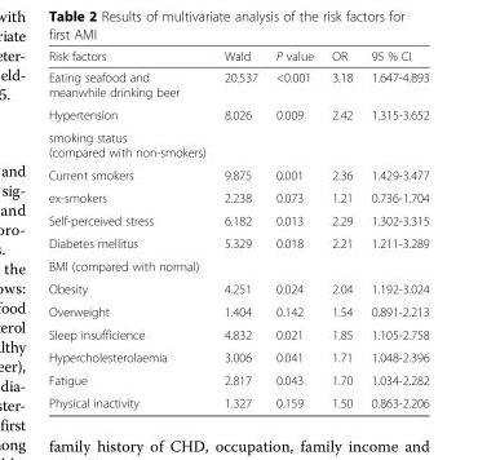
<table><thead><tr><td>Risk factors</td><td>Wald</td><td>P value</td><td>OR</td><td>95 % CI</td></tr></thead><tbody><tr><td>Eating seafood and meanwhile drinking beer</td><td>20.537</td><td>&lt;0.001</td><td>3.18</td><td>1.647-4.893</td></tr><tr><td>Hypertension</td><td>8.026</td><td>0.009</td><td>2.42</td><td>1.315-3.652</td></tr><tr><td colspan="5">smoking status (compared with non-smokers)</td></tr><tr><td>Current smokers</td><td>9.875</td><td>0.001</td><td>2.36</td><td>1.429-3.477</td></tr><tr><td>ex-smokers</td><td>2.238</td><td>0.073</td><td>1.21</td><td>0.736-1.704</td></tr><tr><td>Self-perceived stress</td><td>6.182</td><td>0.013</td><td>2.29</td><td>1.302-3.315</td></tr><tr><td>Diabetes mellitus</td><td>5.329</td><td>0.018</td><td>2.21</td><td>1.211-3.289</td></tr><tr><td colspan="5">BMI (compared with normal)</td></tr><tr><td>Obesity</td><td>4.251</td><td>0.024</td><td>2.04</td><td>1.192-3.024</td></tr><tr><td>Overweight</td><td>1.404</td><td>0.142</td><td>1.54</td><td>0.891-2.213</td></tr><tr><td>Sleep insufficience</td><td>4.832</td><td>0.021</td><td>1.85</td><td>1.105-2.758</td></tr><tr><td>Hypercholesterolaemia</td><td>3.006</td><td>0.041</td><td>1.71</td><td>1.048-2.396</td></tr><tr><td>Fatigue</td><td>2.817</td><td>0.043</td><td>1.70</td><td>1.034-2.282</td></tr><tr><td>Physical inactivity</td><td>1.327</td><td>0.159</td><td>1.50</td><td>0.863-2.206</td></tr></tbody></table>